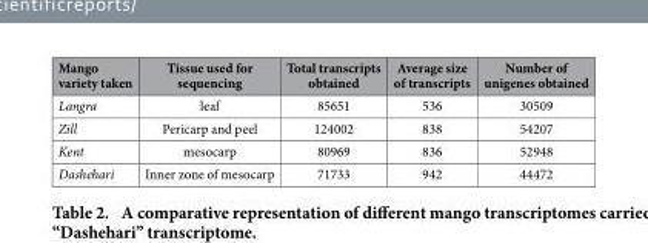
<table><thead><tr><td>Mango variety taken</td><td>Tissue used for sequencing</td><td>Total transcripts obtained</td><td>Average size of transcripts</td><td>Number of unigenes obtained</td></tr></thead><tbody><tr><td>Langra</td><td>leaf</td><td>85651</td><td>536</td><td>30509</td></tr><tr><td>Zill</td><td>Pericarp and peel</td><td>124002</td><td>838</td><td>54207</td></tr><tr><td>Kent</td><td>mesocarp</td><td>80969</td><td>836</td><td>52948</td></tr><tr><td>Dashehari</td><td>Inner zone of mesocarp</td><td>71733</td><td>942</td><td>44472</td></tr></tbody></table>